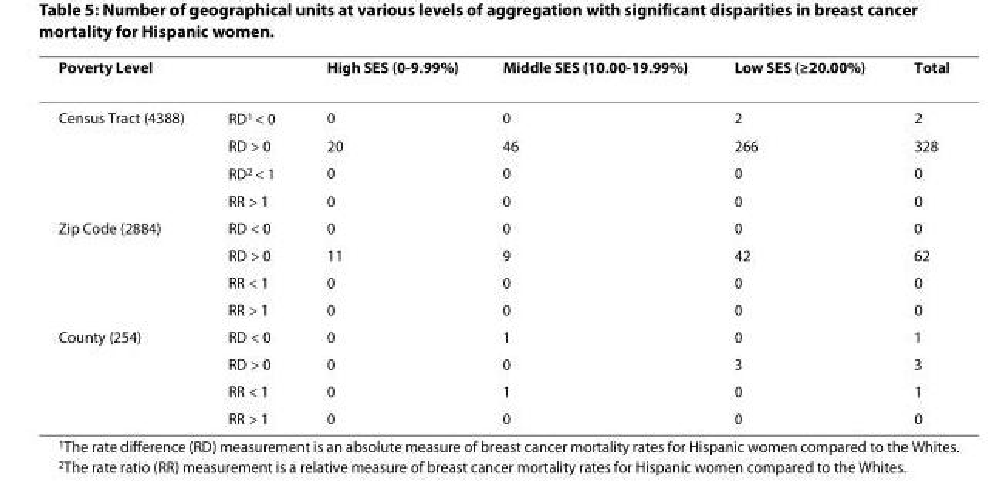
<table><thead><tr><td>Poverty Level</td><td></td><td>High SES (0-9.99%)</td><td>Middle SES (10.00-19.99%)</td><td>Low SES (≥20.00%)</td><td>Total</td></tr></thead><tbody><tr><td rowspan="4">Census Tract (4388)</td><td>RD<sup>1</sup> &lt; 0</td><td>0</td><td>0</td><td>2</td><td>2</td></tr><tr><td>RD &gt; 0</td><td>20</td><td>46</td><td>266</td><td>328</td></tr><tr><td>RD<sup>2</sup> &lt; 1</td><td>0</td><td>0</td><td>0</td><td>0</td></tr><tr><td>RR &gt; 1</td><td>0</td><td>0</td><td>0</td><td>0</td></tr><tr><td rowspan="4">Zip Code (2884)</td><td>RD &lt; 0</td><td>0</td><td>0</td><td>0</td><td>0</td></tr><tr><td>RD &gt; 0</td><td>11</td><td>9</td><td>42</td><td>62</td></tr><tr><td>RR &lt; 1</td><td>0</td><td>0</td><td>0</td><td>0</td></tr><tr><td>RR &gt; 1</td><td>0</td><td>0</td><td>0</td><td>0</td></tr><tr><td rowspan="4">County (254)</td><td>RD &lt; 0</td><td>0</td><td>1</td><td>0</td><td>1</td></tr><tr><td>RD &gt; 0</td><td>0</td><td>0</td><td>3</td><td>3</td></tr><tr><td>RR &lt; 1</td><td>0</td><td>1</td><td>0</td><td>1</td></tr><tr><td>RR &gt; 1</td><td>0</td><td>0</td><td>0</td><td>0</td></tr></tbody></table>